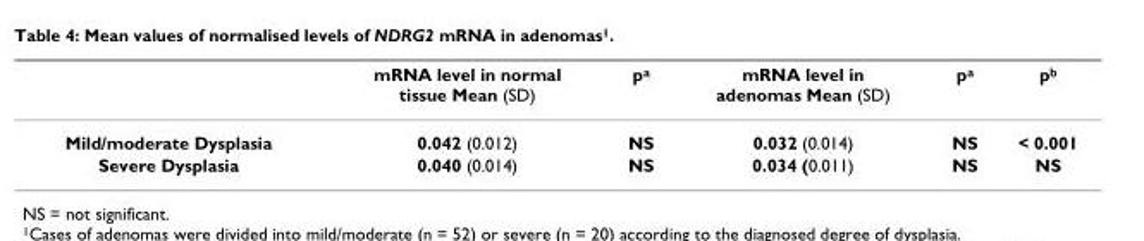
<table><thead><tr><td></td><td>mRNA level in normal tissue Mean (SD)</td><td>p<sup>a</sup></td><td>mRNA level in adenomas Mean (SD)</td><td>p<sup>a</sup></td><td>p<sup>b</sup></td></tr></thead><tbody><tr><td>Mild/moderate Dysplasia</td><td>0.042 (0.012)</td><td>NS</td><td>0.032 (0.014)</td><td>NS</td><td>&lt; 0.001</td></tr><tr><td>Severe Dysplasia</td><td>0.040 (0.014)</td><td>NS</td><td>0.034 (0.011)</td><td>NS</td><td>NS</td></tr></tbody></table>